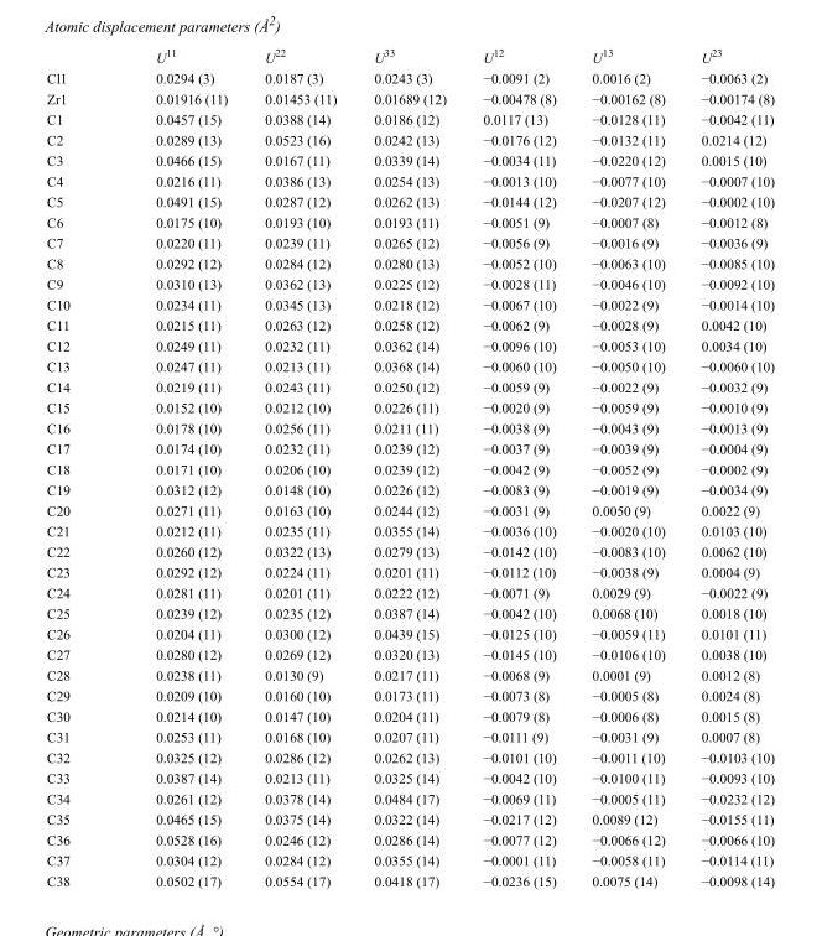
<table><thead><tr><td></td><td>U<sup>11</sup></td><td>U<sup>22</sup></td><td>U<sup>33</sup></td><td>U<sup>12</sup></td><td>U<sup>13</sup></td><td>U<sup>23</sup></td></tr></thead><tbody><tr><td>Cl1</td><td>0.0294 (3)</td><td>0.0187 (3)</td><td>0.0243 (3)</td><td>−0.0091 (2)</td><td>0.0016 (2)</td><td>−0.0063 (2)</td></tr><tr><td>Zr1</td><td>0.01916 (11)</td><td>0.01453 (11)</td><td>0.01689 (12)</td><td>−0.00478 (8)</td><td>−0.00162 (8)</td><td>−0.00174 (8)</td></tr><tr><td>C1</td><td>0.0457 (15)</td><td>0.0388 (14)</td><td>0.0186 (12)</td><td>0.0117 (13)</td><td>−0.0128 (11)</td><td>−0.0042 (11)</td></tr><tr><td>C2</td><td>0.0289 (13)</td><td>0.0523 (16)</td><td>0.0242 (13)</td><td>−0.0176 (12)</td><td>−0.0132 (11)</td><td>0.0214 (12)</td></tr><tr><td>C3</td><td>0.0466 (15)</td><td>0.0167 (11)</td><td>0.0339 (14)</td><td>−0.0034 (11)</td><td>−0.0220 (12)</td><td>0.0015 (10)</td></tr><tr><td>C4</td><td>0.0216 (11)</td><td>0.0386 (13)</td><td>0.0254 (13)</td><td>−0.0013 (10)</td><td>−0.0077 (10)</td><td>−0.0007 (10)</td></tr><tr><td>C5</td><td>0.0491 (15)</td><td>0.0287 (12)</td><td>0.0262 (13)</td><td>−0.0144 (12)</td><td>−0.0207 (12)</td><td>−0.0002 (10)</td></tr><tr><td>C6</td><td>0.0175 (10)</td><td>0.0193 (10)</td><td>0.0193 (11)</td><td>−0.0051 (9)</td><td>−0.0007 (8)</td><td>−0.0012 (8)</td></tr><tr><td>C7</td><td>0.0220 (11)</td><td>0.0239 (11)</td><td>0.0265 (12)</td><td>−0.0056 (9)</td><td>−0.0016 (9)</td><td>−0.0036 (9)</td></tr><tr><td>C8</td><td>0.0292 (12)</td><td>0.0284 (12)</td><td>0.0280 (13)</td><td>−0.0052 (10)</td><td>−0.0063 (10)</td><td>−0.0085 (10)</td></tr><tr><td>C9</td><td>0.0310 (13)</td><td>0.0362 (13)</td><td>0.0225 (12)</td><td>−0.0028 (11)</td><td>−0.0046 (10)</td><td>−0.0092 (10)</td></tr><tr><td>C10</td><td>0.0234 (11)</td><td>0.0345 (13)</td><td>0.0218 (12)</td><td>−0.0067 (10)</td><td>−0.0022 (9)</td><td>−0.0014 (10)</td></tr><tr><td>C11</td><td>0.0215 (11)</td><td>0.0263 (12)</td><td>0.0258 (12)</td><td>−0.0062 (9)</td><td>−0.0028 (9)</td><td>0.0042 (10)</td></tr><tr><td>C12</td><td>0.0249 (11)</td><td>0.0232 (11)</td><td>0.0362 (14)</td><td>−0.0096 (10)</td><td>−0.0053 (10)</td><td>0.0034 (10)</td></tr><tr><td>C13</td><td>0.0247 (11)</td><td>0.0213 (11)</td><td>0.0368 (14)</td><td>−0.0060 (10)</td><td>−0.0050 (10)</td><td>−0.0060 (10)</td></tr><tr><td>C14</td><td>0.0219 (11)</td><td>0.0243 (11)</td><td>0.0250 (12)</td><td>−0.0059 (9)</td><td>−0.0022 (9)</td><td>−0.0032 (9)</td></tr><tr><td>C15</td><td>0.0152 (10)</td><td>0.0212 (10)</td><td>0.0226 (11)</td><td>−0.0020 (9)</td><td>−0.0059 (9)</td><td>−0.0010 (9)</td></tr><tr><td>C16</td><td>0.0178 (10)</td><td>0.0256 (11)</td><td>0.0211 (11)</td><td>−0.0038 (9)</td><td>−0.0043 (9)</td><td>−0.0013 (9)</td></tr><tr><td>C17</td><td>0.0174 (10)</td><td>0.0232 (11)</td><td>0.0239 (12)</td><td>−0.0037 (9)</td><td>−0.0039 (9)</td><td>−0.0004 (9)</td></tr><tr><td>C18</td><td>0.0171 (10)</td><td>0.0206 (10)</td><td>0.0239 (12)</td><td>−0.0042 (9)</td><td>−0.0052 (9)</td><td>−0.0002 (9)</td></tr><tr><td>C19</td><td>0.0312 (12)</td><td>0.0148 (10)</td><td>0.0226 (12)</td><td>−0.0083 (9)</td><td>−0.0019 (9)</td><td>−0.0034 (9)</td></tr><tr><td>C20</td><td>0.0271 (11)</td><td>0.0163 (10)</td><td>0.0244 (12)</td><td>−0.0031 (9)</td><td>0.0050 (9)</td><td>0.0022 (9)</td></tr><tr><td>C21</td><td>0.0212 (11)</td><td>0.0235 (11)</td><td>0.0355 (14)</td><td>−0.0036 (10)</td><td>−0.0020 (10)</td><td>0.0103 (10)</td></tr><tr><td>C22</td><td>0.0260 (12)</td><td>0.0322 (13)</td><td>0.0279 (13)</td><td>−0.0142 (10)</td><td>−0.0083 (10)</td><td>0.0062 (10)</td></tr><tr><td>C23</td><td>0.0292 (12)</td><td>0.0224 (11)</td><td>0.0201 (11)</td><td>−0.0112 (10)</td><td>−0.0038 (9)</td><td>0.0004 (9)</td></tr><tr><td>C24</td><td>0.0281 (11)</td><td>0.0201 (11)</td><td>0.0222 (12)</td><td>−0.0071 (9)</td><td>0.0029 (9)</td><td>−0.0022 (9)</td></tr><tr><td>C25</td><td>0.0239 (12)</td><td>0.0235 (12)</td><td>0.0387 (14)</td><td>−0.0042 (10)</td><td>0.0068 (10)</td><td>0.0018 (10)</td></tr><tr><td>C26</td><td>0.0204 (11)</td><td>0.0300 (12)</td><td>0.0439 (15)</td><td>−0.0125 (10)</td><td>−0.0059 (11)</td><td>0.0101 (11)</td></tr><tr><td>C27</td><td>0.0280 (12)</td><td>0.0269 (12)</td><td>0.0320 (13)</td><td>−0.0145 (10)</td><td>−0.0106 (10)</td><td>0.0038 (10)</td></tr><tr><td>C28</td><td>0.0238 (11)</td><td>0.0130 (9)</td><td>0.0217 (11)</td><td>−0.0068 (9)</td><td>0.0001 (9)</td><td>0.0012 (8)</td></tr><tr><td>C29</td><td>0.0209 (10)</td><td>0.0160 (10)</td><td>0.0173 (11)</td><td>−0.0073 (8)</td><td>−0.0005 (8)</td><td>0.0024 (8)</td></tr><tr><td>C30</td><td>0.0214 (10)</td><td>0.0147 (10)</td><td>0.0204 (11)</td><td>−0.0079 (8)</td><td>−0.0006 (8)</td><td>0.0015 (8)</td></tr><tr><td>C31</td><td>0.0253 (11)</td><td>0.0168 (10)</td><td>0.0207 (11)</td><td>−0.0111 (9)</td><td>−0.0031 (9)</td><td>0.0007 (8)</td></tr><tr><td>C32</td><td>0.0325 (12)</td><td>0.0286 (12)</td><td>0.0262 (13)</td><td>−0.0101 (10)</td><td>−0.0011 (10)</td><td>−0.0103 (10)</td></tr><tr><td>C33</td><td>0.0387 (14)</td><td>0.0213 (11)</td><td>0.0325 (14)</td><td>−0.0042 (10)</td><td>−0.0100 (11)</td><td>−0.0093 (10)</td></tr><tr><td>C34</td><td>0.0261 (12)</td><td>0.0378 (14)</td><td>0.0484 (17)</td><td>−0.0069 (11)</td><td>−0.0005 (11)</td><td>−0.0232 (12)</td></tr><tr><td>C35</td><td>0.0465 (15)</td><td>0.0375 (14)</td><td>0.0322 (14)</td><td>−0.0217 (12)</td><td>0.0089 (12)</td><td>−0.0155 (11)</td></tr><tr><td>C36</td><td>0.0528 (16)</td><td>0.0246 (12)</td><td>0.0286 (14)</td><td>−0.0077 (12)</td><td>−0.0066 (12)</td><td>−0.0066 (10)</td></tr><tr><td>C37</td><td>0.0304 (12)</td><td>0.0284 (12)</td><td>0.0355 (14)</td><td>−0.0001 (11)</td><td>−0.0058 (11)</td><td>−0.0114 (11)</td></tr><tr><td>C38</td><td>0.0502 (17)</td><td>0.0554 (17)</td><td>0.0418 (17)</td><td>−0.0236 (15)</td><td>0.0075 (14)</td><td>−0.0098 (14)</td></tr></tbody></table>